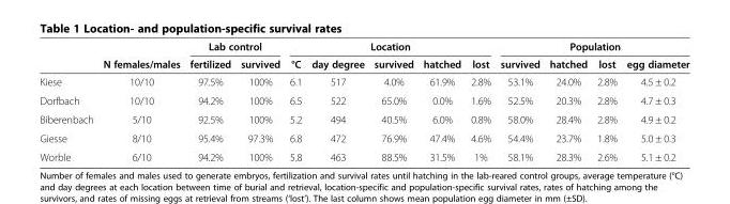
<table><thead><tr><td rowspan="2"></td><td rowspan="2">N females/males</td><td colspan="2">Lab control</td><td colspan="5">Location</td><td colspan="4">Population</td></tr><tr><td>fertilized</td><td>survived</td><td>°C</td><td>day degree</td><td>survived</td><td>hatched</td><td>lost</td><td>survived</td><td>hatched</td><td>lost</td><td>egg diameter</td></tr></thead><tbody><tr><td>Kiese</td><td>10/10</td><td>97.5%</td><td>100%</td><td>6.1</td><td>517</td><td>4.0%</td><td>61.9%</td><td>2.8%</td><td>53.1%</td><td>24.0%</td><td>2.8%</td><td>4.5 ± 0.2</td></tr><tr><td>Dorfbach</td><td>10/10</td><td>94.2%</td><td>100%</td><td>6.5</td><td>522</td><td>65.0%</td><td>0.0%</td><td>1.6%</td><td>52.5%</td><td>20.3%</td><td>2.8%</td><td>4.7 ± 0.3</td></tr><tr><td>Biberenbach</td><td>5/10</td><td>92.5%</td><td>100%</td><td>5.2</td><td>494</td><td>40.5%</td><td>6.0%</td><td>0.8%</td><td>58.0%</td><td>28.4%</td><td>2.8%</td><td>4.9 ± 0.2</td></tr><tr><td>Giesse</td><td>8/10</td><td>95.4%</td><td>97.3%</td><td>6.8</td><td>472</td><td>76.9%</td><td>47.4%</td><td>4.6%</td><td>54.4%</td><td>23.7%</td><td>1.8%</td><td>5.0 ± 0.3</td></tr><tr><td>Worble</td><td>6/10</td><td>94.2%</td><td>100%</td><td>5.8</td><td>463</td><td>88.5%</td><td>31.5%</td><td>1%</td><td>58.1%</td><td>28.3%</td><td>2.6%</td><td>5.1 ± 0.2</td></tr></tbody></table>